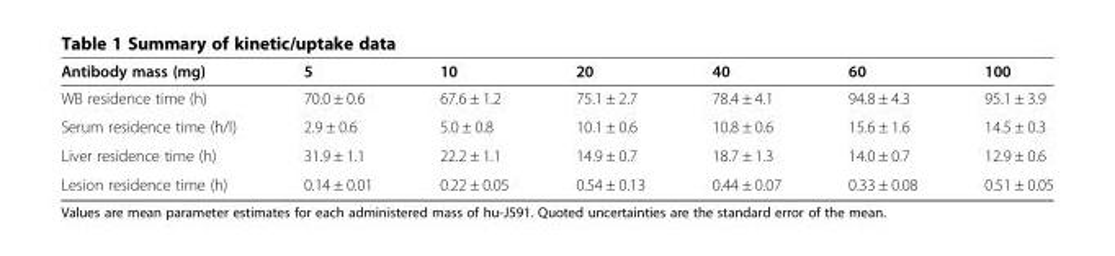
<table><thead><tr><td>Antibody mass (mg)</td><td>5</td><td>10</td><td>20</td><td>40</td><td>60</td><td>100</td></tr></thead><tbody><tr><td>WB residence time (h)</td><td>70.0 ± 0.6</td><td>67.6 ± 1.2</td><td>75.1 ± 2.7</td><td>78.4 ± 4.1</td><td>94.8 ± 4.3</td><td>95.1 ± 3.9</td></tr><tr><td>Serum residence time (h/l)</td><td>2.9 ± 0.6</td><td>5.0 ± 0.8</td><td>10.1 ± 0.6</td><td>10.8 ± 0.6</td><td>15.6 ± 1.6</td><td>14.5 ± 0.3</td></tr><tr><td>Liver residence time (h)</td><td>31.9 ± 1.1</td><td>22.2 ± 1.1</td><td>14.9 ± 0.7</td><td>18.7 ± 1.3</td><td>14.0 ± 0.7</td><td>12.9 ± 0.6</td></tr><tr><td>Lesion residence time (h)</td><td>0.14 ± 0.01</td><td>0.22 ± 0.05</td><td>0.54 ± 0.13</td><td>0.44 ± 0.07</td><td>0.33 ± 0.08</td><td>0.51 ± 0.05</td></tr></tbody></table>